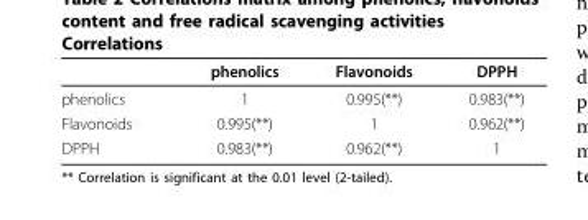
<table><thead><tr><td></td><td>phenolics</td><td>Flavonoids</td><td>DPPH</td></tr></thead><tbody><tr><td>phenolics</td><td>1</td><td>0.995(**)</td><td>0.983(**)</td></tr><tr><td>Flavonoids</td><td>0.995(**)</td><td>1</td><td>0.962(**)</td></tr><tr><td>DPPH</td><td>0.983(**)</td><td>0.962(**)</td><td>1</td></tr></tbody></table>